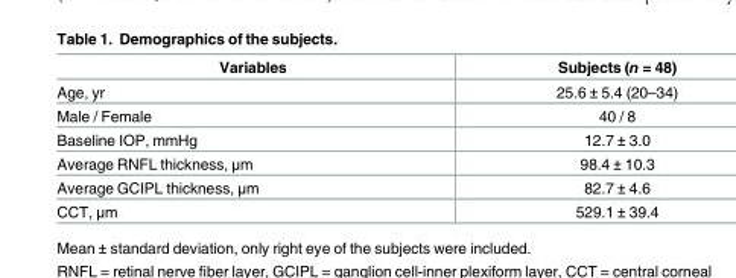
<table><thead><tr><td>Variables</td><td>Subjects (n = 48)</td></tr></thead><tbody><tr><td>Age, yr</td><td>25.6 ± 5.4 (20–34)</td></tr><tr><td>Male / Female</td><td>40 / 8</td></tr><tr><td>Baseline IOP, mmHg</td><td>12.7 ± 3.0</td></tr><tr><td>Average RNFL thickness, μm</td><td>98.4 ± 10.3</td></tr><tr><td>Average GCIPL thickness, μm</td><td>82.7 ± 4.6</td></tr><tr><td>CCT, μm</td><td>529.1 ± 39.4</td></tr></tbody></table>